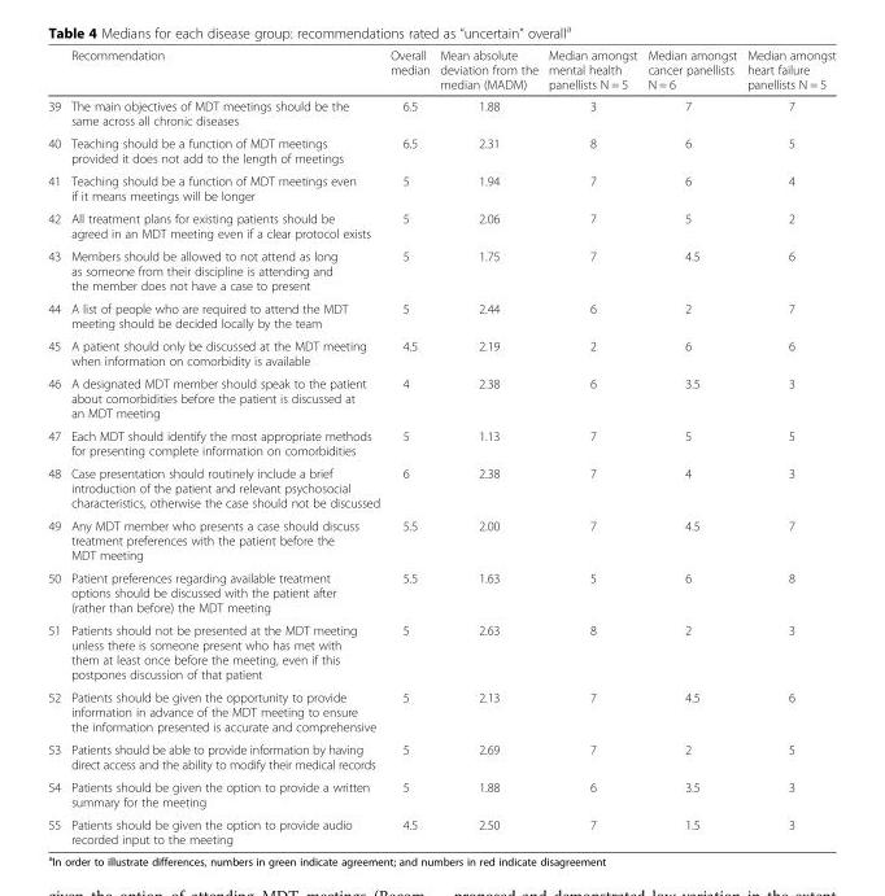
<table><thead><tr><td></td><td>Recommendation</td><td>Overall median</td><td>Mean absolute deviation from the median (MADM)</td><td>Median amongst mental health panellists N = 5</td><td>Median amongst cancer panellists N = 6</td><td>Median amongst heart failure panellists N = 5</td></tr></thead><tbody><tr><td>39</td><td>The main objectives of MDT meetings should be the same across all chronic diseases</td><td>6.5</td><td>1.88</td><td>3</td><td>7</td><td>7</td></tr><tr><td>40</td><td>Teaching should be a function of MDT meetings provided it does not add to the length of meetings</td><td>6.5</td><td>2.31</td><td>8</td><td>6</td><td>5</td></tr><tr><td>41</td><td>Teaching should be a function of MDT meetings even if it means meetings will be longer</td><td>5</td><td>1.94</td><td>7</td><td>6</td><td>4</td></tr><tr><td>42</td><td>All treatment plans for existing patients should be agreed in an MDT meeting even if a clear protocol exists</td><td>5</td><td>2.06</td><td>7</td><td>5</td><td>2</td></tr><tr><td>43</td><td>Members should be allowed to not attend as long as someone from their discipline is attending and the member does not have a case to present</td><td>5</td><td>1.75</td><td>7</td><td>4.5</td><td>6</td></tr><tr><td>44</td><td>A list of people who are required to attend the MDT meeting should be decided locally by the team</td><td>5</td><td>2.44</td><td>6</td><td>2</td><td>7</td></tr><tr><td>45</td><td>A patient should only be discussed at the MDT meeting when information on comorbidity is available</td><td>4.5</td><td>2.19</td><td>2</td><td>6</td><td>6</td></tr><tr><td>46</td><td>A designated MDT member should speak to the patient about comorbidities before the patient is discussed at an MDT meeting</td><td>4</td><td>2.38</td><td>6</td><td>3.5</td><td>3</td></tr><tr><td>47</td><td>Each MDT should identify the most appropriate methods for presenting complete information on comorbidities</td><td>5</td><td>1.13</td><td>7</td><td>5</td><td>5</td></tr><tr><td>48</td><td>Case presentation should routinely include a brief introduction of the patient and relevant psychosocial characteristics, otherwise the case should not be discussed</td><td>6</td><td>2.38</td><td>7</td><td>4</td><td>3</td></tr><tr><td>49</td><td>Any MDT member who presents a case should discuss treatment preferences with the patient before the MDT meeting</td><td>5.5</td><td>2.00</td><td>7</td><td>4.5</td><td>7</td></tr><tr><td>50</td><td>Patient preferences regarding available treatment options should be discussed with the patient after (rather than before) the MDT meeting</td><td>5.5</td><td>1.63</td><td>5</td><td>6</td><td>8</td></tr><tr><td>51</td><td>Patients should not be presented at the MDT meeting unless there is someone present who has met with them at least once before the meeting, even if this postpones discussion of that patient</td><td>5</td><td>2.63</td><td>8</td><td>2</td><td>3</td></tr><tr><td>52</td><td>Patients should be given the opportunity to provide information in advance of the MDT meeting to ensure the information presented is accurate and comprehensive</td><td>5</td><td>2.13</td><td>7</td><td>4.5</td><td>6</td></tr><tr><td>53</td><td>Patients should be able to provide information by having direct access and the ability to modify their medical records</td><td>5</td><td>2.69</td><td>7</td><td>2</td><td>5</td></tr><tr><td>54</td><td>Patients should be given the option to provide a written summary for the meeting</td><td>5</td><td>1.88</td><td>6</td><td>3.5</td><td>3</td></tr><tr><td>55</td><td>Patients should be given the option to provide audio recorded input to the meeting</td><td>4.5</td><td>2.50</td><td>7</td><td>1.5</td><td>3</td></tr></tbody></table>